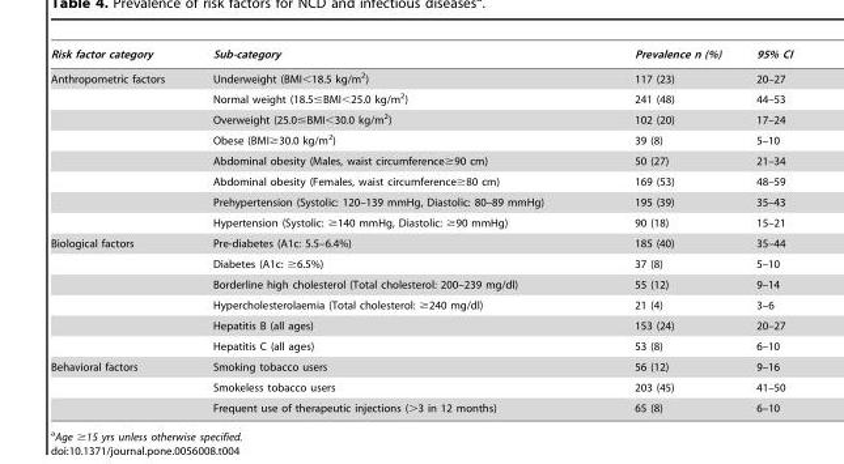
<table><thead><tr><td>Risk factor category</td><td>Sub-category</td><td>Prevalence n (%)</td><td>95% CI</td></tr></thead><tbody><tr><td rowspan="8">Anthropometric factors</td><td>Underweight (BMI&lt;18.5 kg/m<sup>2</sup>)</td><td>117 (23)</td><td>20–27</td></tr><tr><td>Normal weight (18.5≤BMI&lt;25.0 kg/m<sup>2</sup>)</td><td>241 (48)</td><td>44–53</td></tr><tr><td>Overweight (25.0≤BMI&lt;30.0 kg/m<sup>2</sup>)</td><td>102 (20)</td><td>17–24</td></tr><tr><td>Obese (BMI≥30.0 kg/m<sup>2</sup>)</td><td>39 (8)</td><td>5–10</td></tr><tr><td>Abdominal obesity (Males, waist circumference≥90 cm)</td><td>50 (27)</td><td>21–34</td></tr><tr><td>Abdominal obesity (Females, waist circumference≥80 cm)</td><td>169 (53)</td><td>48–59</td></tr><tr><td>Prehypertension (Systolic: 120–139 mmHg, Diastolic: 80–89 mmHg)</td><td>195 (39)</td><td>35–43</td></tr><tr><td>Hypertension (Systolic: ≥140 mmHg, Diastolic: ≥90 mmHg)</td><td>90 (18)</td><td>15–21</td></tr><tr><td rowspan="6">Biological factors</td><td>Pre-diabetes (A1c: 5.5–6.4%)</td><td>185 (40)</td><td>35–44</td></tr><tr><td>Diabetes (A1c: ≥6.5%)</td><td>37 (8)</td><td>5–10</td></tr><tr><td>Borderline high cholesterol (Total cholesterol: 200–239 mg/dl)</td><td>55 (12)</td><td>9–14</td></tr><tr><td>Hypercholesterolaemia (Total cholesterol: ≥240 mg/dl)</td><td>21 (4)</td><td>3–6</td></tr><tr><td>Hepatitis B (all ages)</td><td>153 (24)</td><td>20–27</td></tr><tr><td>Hepatitis C (all ages)</td><td>53 (8)</td><td>6–10</td></tr><tr><td rowspan="3">Behavioral factors</td><td>Smoking tobacco users</td><td>56 (12)</td><td>9–16</td></tr><tr><td>Smokeless tobacco users</td><td>203 (45)</td><td>41–50</td></tr><tr><td>Frequent use of therapeutic injections (&gt;3 in 12 months)</td><td>65 (8)</td><td>6–10</td></tr></tbody></table>